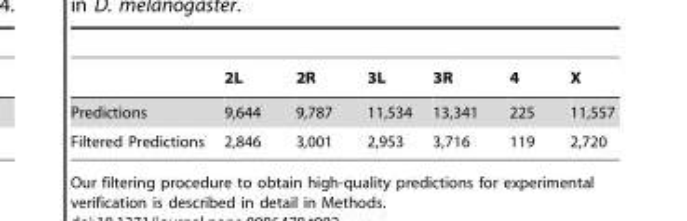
<table><thead><tr><td></td><td>2L</td><td>2R</td><td>3L</td><td>3R</td><td>4</td><td>X</td></tr></thead><tbody><tr><td>Predictions</td><td>9,644</td><td>9,787</td><td>11,534</td><td>13,341</td><td>225</td><td>11,557</td></tr><tr><td>Filtered Predictions</td><td>2,846</td><td>3,001</td><td>2,953</td><td>3,716</td><td>119</td><td>2,720</td></tr></tbody></table>